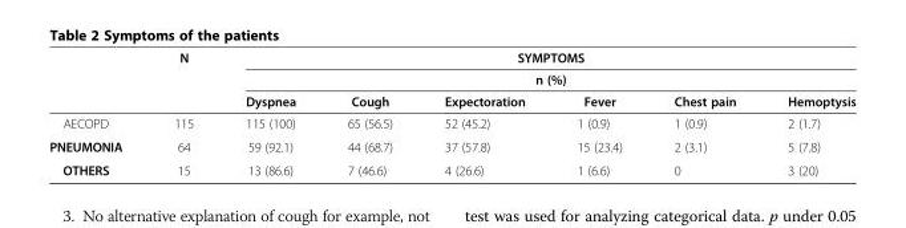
<table><thead><tr><td rowspan="3"></td><td rowspan="3">N</td><td rowspan="2" colspan="6">SYMPTOMS n (%)</td></tr><tr></tr><tr><td>Dyspnea</td><td>Cough</td><td>Expectoration</td><td>Fever</td><td>Chest pain</td><td>Hemoptysis</td></tr></thead><tbody><tr><td>AECOPD</td><td>115</td><td>115 (100)</td><td>65 (56.5)</td><td>52 (45.2)</td><td>1 (0.9)</td><td>1 (0.9)</td><td>2 (1.7)</td></tr><tr><td>PNEUMONIA</td><td>64</td><td>59 (92.1)</td><td>44 (68.7)</td><td>37 (57.8)</td><td>15 (23.4)</td><td>2 (3.1)</td><td>5 (7.8)</td></tr><tr><td>OTHERS</td><td>15</td><td>13 (86.6)</td><td>7 (46.6)</td><td>4 (26.6)</td><td>1 (6.6)</td><td>0</td><td>3 (20)</td></tr></tbody></table>